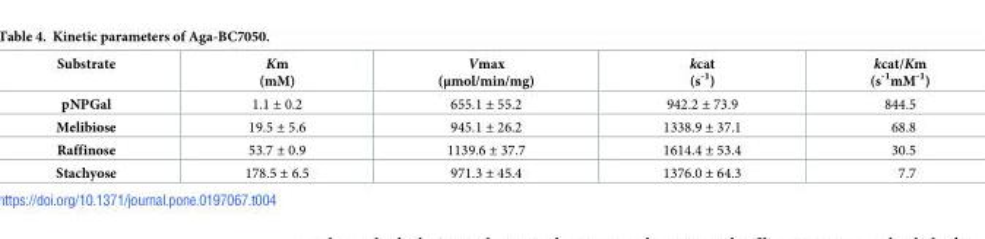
<table><thead><tr><td>Substrate</td><td>Km (mM)</td><td>Vmax (μmol/min/mg)</td><td>kcat (s<sup>-1</sup>)</td><td>kcat/Km (s<sup>-1</sup>mM<sup>-1</sup>)</td></tr></thead><tbody><tr><td>pNPGal</td><td>1.1 ± 0.2</td><td>655.1 ± 55.2</td><td>942.2 ± 73.9</td><td>844.5</td></tr><tr><td>Melibiose</td><td>19.5 ± 5.6</td><td>945.1 ± 26.2</td><td>1338.9 ± 37.1</td><td>68.8</td></tr><tr><td>Raffinose</td><td>53.7 ± 0.9</td><td>1139.6 ± 37.7</td><td>1614.4 ± 53.4</td><td>30.5</td></tr><tr><td>Stachyose</td><td>178.5 ± 6.5</td><td>971.3 ± 45.4</td><td>1376.0 ± 64.3</td><td>7.7</td></tr></tbody></table>